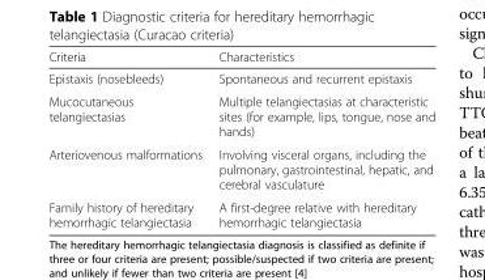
<table><thead><tr><td>Criteria</td><td>Characteristics</td></tr></thead><tbody><tr><td>Epistaxis (nosebleeds)</td><td>Spontaneous and recurrent epistaxis</td></tr><tr><td>Mucocutaneous telangiectasias</td><td>Multiple telangiectasias at characteristic sites (for example, lips, tongue, nose and hands)</td></tr><tr><td>Arteriovenous malformations</td><td>Involving visceral organs, including the pulmonary, gastrointestinal, hepatic, and cerebral vasculature</td></tr><tr><td>Family history of hereditary hemorrhagic telangiectasia</td><td>A first-degree relative with hereditary hemorrhagic telangiectasia</td></tr></tbody></table>